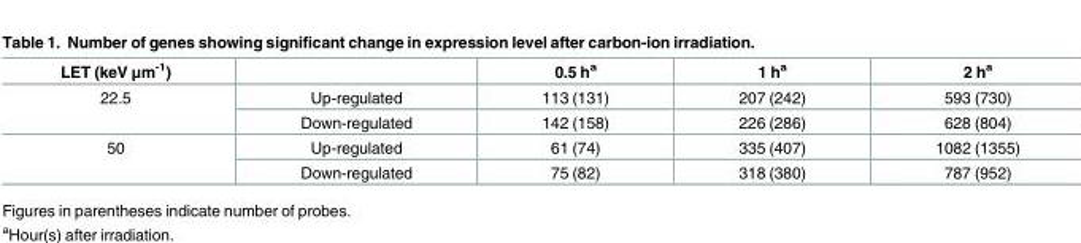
<table><thead><tr><td>LET (keV μm<sup>-1</sup>)</td><td></td><td>0.5 h<sup>a</sup></td><td>1 h<sup>a</sup></td><td>2 h<sup>a</sup></td></tr></thead><tbody><tr><td rowspan="2">22.5</td><td>Up-regulated</td><td>113 (131)</td><td>207 (242)</td><td>593 (730)</td></tr><tr><td>Down-regulated</td><td>142 (158)</td><td>226 (286)</td><td>628 (804)</td></tr><tr><td rowspan="2">50</td><td>Up-regulated</td><td>61 (74)</td><td>335 (407)</td><td>1082 (1355)</td></tr><tr><td>Down-regulated</td><td>75 (82)</td><td>318 (380)</td><td>787 (952)</td></tr></tbody></table>